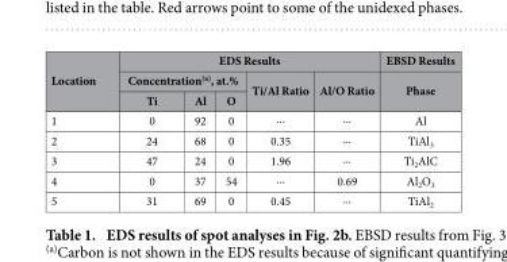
<table><thead><tr><td rowspan="3">Location</td><td colspan="5">EDS Results</td><td rowspan="3">EBSD Results Phase</td></tr><tr><td colspan="3">Concentration(a), at.%</td><td rowspan="2">Ti/Al Ratio</td><td rowspan="2">Al/O Ratio</td></tr><tr><td>Ti</td><td>Al</td><td>O</td></tr></thead><tbody><tr><td>1</td><td>0</td><td>92</td><td>0</td><td>···</td><td>···</td><td>Al</td></tr><tr><td>2</td><td>24</td><td>68</td><td>0</td><td>0.35</td><td>···</td><td>TiAl<sub>3</sub></td></tr><tr><td>3</td><td>47</td><td>24</td><td>0</td><td>1.96</td><td>···</td><td>Ti<sub>2</sub>AlC</td></tr><tr><td>4</td><td>0</td><td>37</td><td>54</td><td>···</td><td>0.69</td><td>Al<sub>2</sub>O<sub>3</sub></td></tr><tr><td>5</td><td>31</td><td>69</td><td>0</td><td>0.45</td><td>···</td><td>TiAl<sub>2</sub></td></tr></tbody></table>